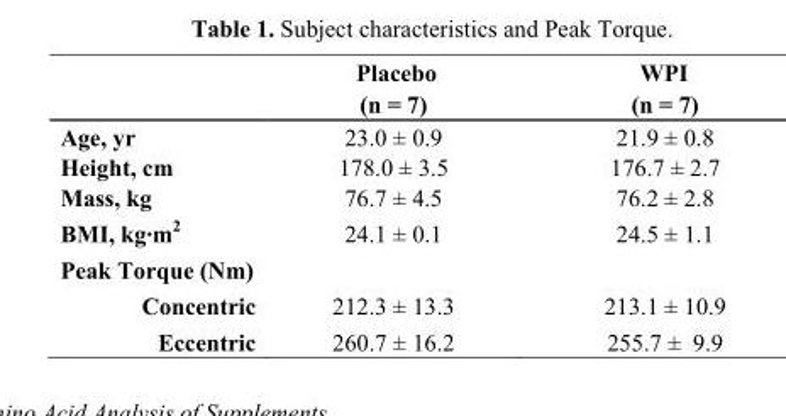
<table><thead><tr><td rowspan="2"></td><td rowspan="2">Placebo (n = 7)</td><td rowspan="2">WPI (n = 7)</td></tr><tr></tr></thead><tbody><tr><td>Age, yr</td><td>23.0 ± 0.9</td><td>21.9 ± 0.8</td></tr><tr><td>Height, cm</td><td>178.0 ± 3.5</td><td>176.7 ± 2.7</td></tr><tr><td>Mass, kg</td><td>76.7 ± 4.5</td><td>76.2 ± 2.8</td></tr><tr><td>BMI, kg·m<sup>2</sup></td><td>24.1 ± 0.1</td><td>24.5 ± 1.1</td></tr><tr><td colspan="3">Peak Torque (Nm)</td></tr><tr><td>Concentric</td><td>212.3 ± 13.3</td><td>213.1 ± 10.9</td></tr><tr><td>Eccentric</td><td>260.7 ± 16.2</td><td>255.7 ± 9.9</td></tr></tbody></table>